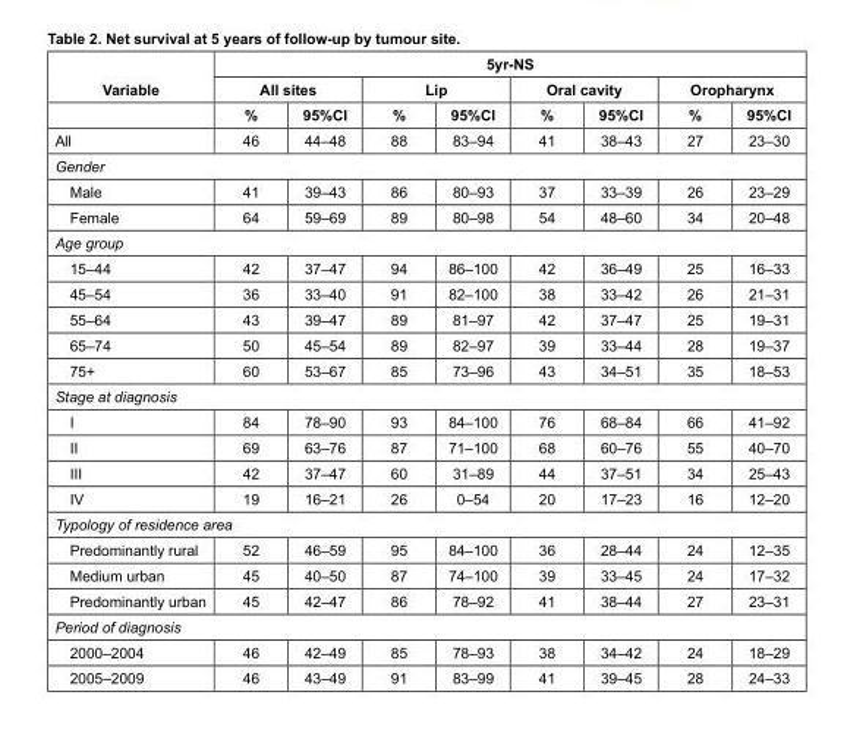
<table><thead><tr><td rowspan="3">Variable</td><td colspan="8">5yr-NS</td></tr><tr><td colspan="2">All sites</td><td colspan="2">Lip</td><td colspan="2">Oral cavity</td><td colspan="2">Oropharynx</td></tr><tr><td>%</td><td>95%CI</td><td>%</td><td>95%CI</td><td>%</td><td>95%CI</td><td>%</td><td>95%CI</td></tr></thead><tbody><tr><td>All</td><td>46</td><td>44–48</td><td>88</td><td>83–94</td><td>41</td><td>38–43</td><td>27</td><td>23–30</td></tr><tr><td colspan="9">Gender</td></tr><tr><td>Male</td><td>41</td><td>39–43</td><td>86</td><td>80–93</td><td>37</td><td>33–39</td><td>26</td><td>23–29</td></tr><tr><td>Female</td><td>64</td><td>59–69</td><td>89</td><td>80–98</td><td>54</td><td>48–60</td><td>34</td><td>20–48</td></tr><tr><td colspan="9">Age group</td></tr><tr><td>15–44</td><td>42</td><td>37–47</td><td>94</td><td>86–100</td><td>42</td><td>36–49</td><td>25</td><td>16–33</td></tr><tr><td>45–54</td><td>36</td><td>33–40</td><td>91</td><td>82–100</td><td>38</td><td>33–42</td><td>26</td><td>21–31</td></tr><tr><td>55–64</td><td>43</td><td>39–47</td><td>89</td><td>81–97</td><td>42</td><td>37–47</td><td>25</td><td>19–31</td></tr><tr><td>65–74</td><td>50</td><td>45–54</td><td>89</td><td>82–97</td><td>39</td><td>33–44</td><td>28</td><td>19–37</td></tr><tr><td>75+</td><td>60</td><td>53–67</td><td>85</td><td>73–96</td><td>43</td><td>34–51</td><td>35</td><td>18–53</td></tr><tr><td colspan="9">Stage at diagnosis</td></tr><tr><td>I</td><td>84</td><td>78–90</td><td>93</td><td>84–100</td><td>76</td><td>68–84</td><td>66</td><td>41–92</td></tr><tr><td>II</td><td>69</td><td>63–76</td><td>87</td><td>71–100</td><td>68</td><td>60–76</td><td>55</td><td>40–70</td></tr><tr><td>III</td><td>42</td><td>37–47</td><td>60</td><td>31–89</td><td>44</td><td>37–51</td><td>34</td><td>25–43</td></tr><tr><td>IV</td><td>19</td><td>16–21</td><td>26</td><td>0–54</td><td>20</td><td>17–23</td><td>16</td><td>12–20</td></tr><tr><td colspan="9">Typology of residence area</td></tr><tr><td>Predominantly rural</td><td>52</td><td>46–59</td><td>95</td><td>84–100</td><td>36</td><td>28–44</td><td>24</td><td>12–35</td></tr><tr><td>Medium urban</td><td>45</td><td>40–50</td><td>87</td><td>74–100</td><td>39</td><td>33–45</td><td>24</td><td>17–32</td></tr><tr><td>Predominantly urban</td><td>45</td><td>42–47</td><td>86</td><td>78–92</td><td>41</td><td>38–44</td><td>27</td><td>23–31</td></tr><tr><td colspan="9">Period of diagnosis</td></tr><tr><td>2000–2004</td><td>46</td><td>42–49</td><td>85</td><td>78–93</td><td>38</td><td>34–42</td><td>24</td><td>18–29</td></tr><tr><td>2005–2009</td><td>46</td><td>43–49</td><td>91</td><td>83–99</td><td>41</td><td>39–45</td><td>28</td><td>24–33</td></tr></tbody></table>